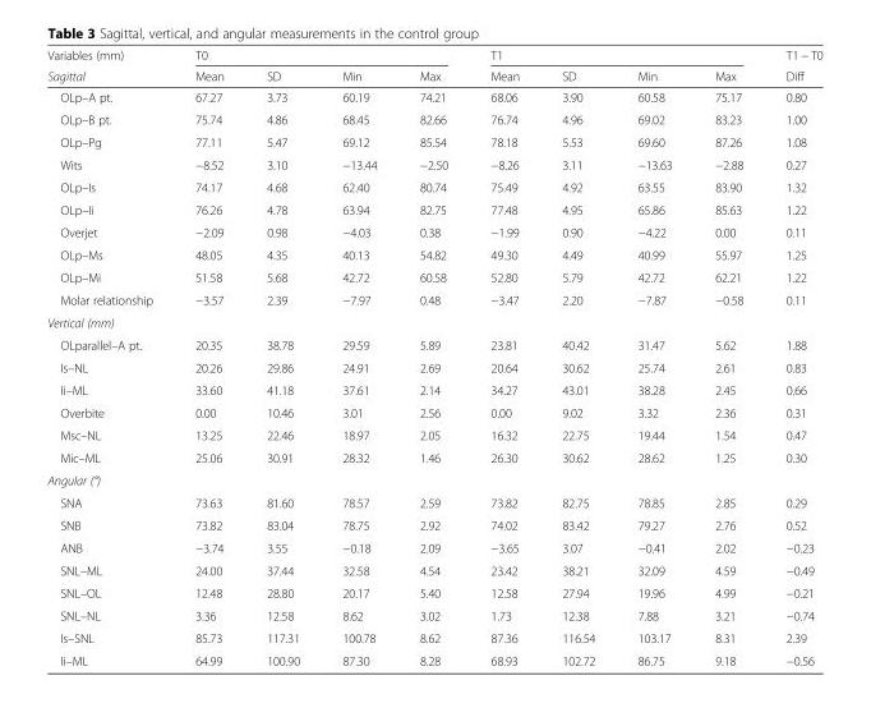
<table><thead><tr><td rowspan="2">Variables (mm) Sagittal</td><td colspan="4">T0</td><td colspan="4">T1</td><td rowspan="2">T1 − T0 Diff</td></tr><tr><td>Mean</td><td>SD</td><td>Min</td><td>Max</td><td>Mean</td><td>SD</td><td>Min</td><td>Max</td></tr></thead><tbody><tr><td>OLp–A pt.</td><td>67.27</td><td>3.73</td><td>60.19</td><td>74.21</td><td>68.06</td><td>3.90</td><td>60.58</td><td>75.17</td><td>0.80</td></tr><tr><td>OLp–B pt.</td><td>75.74</td><td>4.86</td><td>68.45</td><td>82.66</td><td>76.74</td><td>4.96</td><td>69.02</td><td>83.23</td><td>1.00</td></tr><tr><td>OLp–Pg</td><td>77.11</td><td>5.47</td><td>69.12</td><td>85.54</td><td>78.18</td><td>5.53</td><td>69.60</td><td>87.26</td><td>1.08</td></tr><tr><td>Wits</td><td>−8.52</td><td>3.10</td><td>−13.44</td><td>−2.50</td><td>−8.26</td><td>3.11</td><td>−13.63</td><td>−2.88</td><td>0.27</td></tr><tr><td>OLp–Is</td><td>74.17</td><td>4.68</td><td>62.40</td><td>80.74</td><td>75.49</td><td>4.92</td><td>63.55</td><td>83.90</td><td>1.32</td></tr><tr><td>OLp–Ii</td><td>76.26</td><td>4.78</td><td>63.94</td><td>82.75</td><td>77.48</td><td>4.95</td><td>65.86</td><td>85.63</td><td>1.22</td></tr><tr><td>Overjet</td><td>−2.09</td><td>0.98</td><td>−4.03</td><td>0.38</td><td>−1.99</td><td>0.90</td><td>−4.22</td><td>0.00</td><td>0.11</td></tr><tr><td>OLp–Ms</td><td>48.05</td><td>4.35</td><td>40.13</td><td>54.82</td><td>49.30</td><td>4.49</td><td>40.99</td><td>55.97</td><td>1.25</td></tr><tr><td>OLp–Mi</td><td>51.58</td><td>5.68</td><td>42.72</td><td>60.58</td><td>52.80</td><td>5.79</td><td>42.72</td><td>62.21</td><td>1.22</td></tr><tr><td>Molar relationship</td><td>−3.57</td><td>2.39</td><td>−7.97</td><td>0.48</td><td>−3.47</td><td>2.20</td><td>−7.87</td><td>−0.58</td><td>0.11</td></tr><tr><td colspan="10">Vertical (mm)</td></tr><tr><td>OLparallel–A pt.</td><td>20.35</td><td>38.78</td><td>29.59</td><td>5.89</td><td>23.81</td><td>40.42</td><td>31.47</td><td>5.62</td><td>1.88</td></tr><tr><td>Is–NL</td><td>20.26</td><td>29.86</td><td>24.91</td><td>2.69</td><td>20.64</td><td>30.62</td><td>25.74</td><td>2.61</td><td>0.83</td></tr><tr><td>Ii–ML</td><td>33.60</td><td>41.18</td><td>37.61</td><td>2.14</td><td>34.27</td><td>43.01</td><td>38.28</td><td>2.45</td><td>0.66</td></tr><tr><td>Overbite</td><td>0.00</td><td>10.46</td><td>3.01</td><td>2.56</td><td>0.00</td><td>9.02</td><td>3.32</td><td>2.36</td><td>0.31</td></tr><tr><td>Msc–NL</td><td>13.25</td><td>22.46</td><td>18.97</td><td>2.05</td><td>16.32</td><td>22.75</td><td>19.44</td><td>1.54</td><td>0.47</td></tr><tr><td>Mic–ML</td><td>25.06</td><td>30.91</td><td>28.32</td><td>1.46</td><td>26.30</td><td>30.62</td><td>28.62</td><td>1.25</td><td>0.30</td></tr><tr><td colspan="10">Angular (°)</td></tr><tr><td>SNA</td><td>73.63</td><td>81.60</td><td>78.57</td><td>2.59</td><td>73.82</td><td>82.75</td><td>78.85</td><td>2.85</td><td>0.29</td></tr><tr><td>SNB</td><td>73.82</td><td>83.04</td><td>78.75</td><td>2.92</td><td>74.02</td><td>83.42</td><td>79.27</td><td>2.76</td><td>0.52</td></tr><tr><td>ANB</td><td>−3.74</td><td>3.55</td><td>−0.18</td><td>2.09</td><td>−3.65</td><td>3.07</td><td>−0.41</td><td>2.02</td><td>−0.23</td></tr><tr><td>SNL–ML</td><td>24.00</td><td>37.44</td><td>32.58</td><td>4.54</td><td>23.42</td><td>38.21</td><td>32.09</td><td>4.59</td><td>−0.49</td></tr><tr><td>SNL–OL</td><td>12.48</td><td>28.80</td><td>20.17</td><td>5.40</td><td>12.58</td><td>27.94</td><td>19.96</td><td>4.99</td><td>−0.21</td></tr><tr><td>SNL–NL</td><td>3.36</td><td>12.58</td><td>8.62</td><td>3.02</td><td>1.73</td><td>12.38</td><td>7.88</td><td>3.21</td><td>−0.74</td></tr><tr><td>Is–SNL</td><td>85.73</td><td>117.31</td><td>100.78</td><td>8.62</td><td>87.36</td><td>116.54</td><td>103.17</td><td>8.31</td><td>2.39</td></tr><tr><td>Ii–ML</td><td>64.99</td><td>100.90</td><td>87.30</td><td>8.28</td><td>68.93</td><td>102.72</td><td>86.75</td><td>9.18</td><td>−0.56</td></tr></tbody></table>